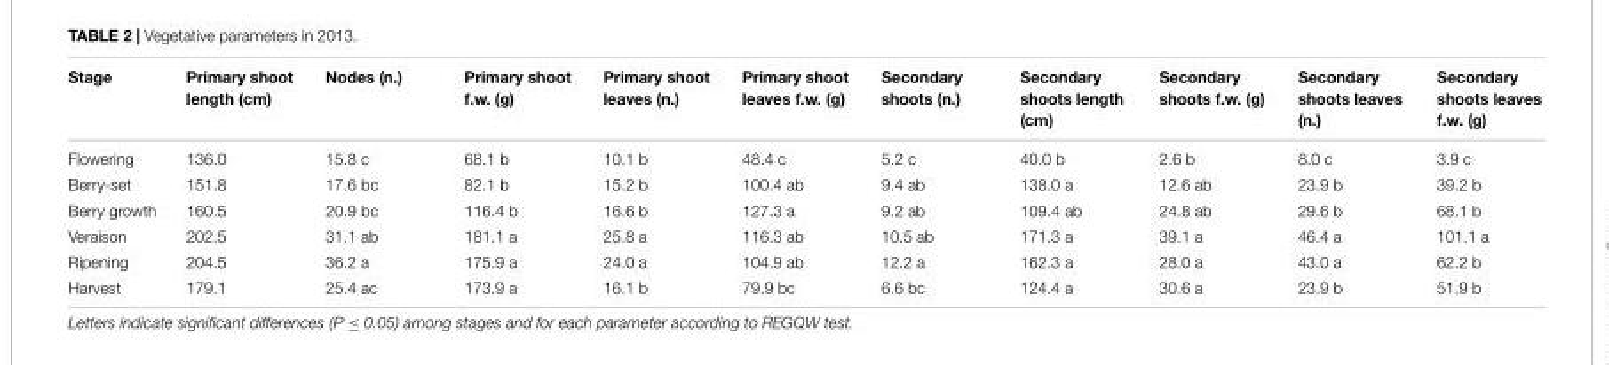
<table><thead><tr><td>Stage</td><td>Primary shoot length (cm)</td><td>Nodes (n.)</td><td>Primary shoot f.w. (g)</td><td>Primary shoot leaves (n.)</td><td>Primary shoot leaves f.w. (g)</td><td>Secondary shoots (n.)</td><td>Secondary shoots length (cm)</td><td>Secondary shoots f.w. (g)</td><td>Secondary shoots leaves (n.)</td><td>Secondary shoots leaves f.w. (g)</td></tr></thead><tbody><tr><td>Flowering</td><td>136.0</td><td>15.8 c</td><td>68.1 b</td><td>10.1 b</td><td>48.4 c</td><td>5.2 c</td><td>40.0 b</td><td>2.6 b</td><td>8.0 c</td><td>3.9 c</td></tr><tr><td>Berry-set</td><td>151.8</td><td>17.6 bc</td><td>82.1 b</td><td>15.2 b</td><td>100.4 ab</td><td>9.4 ab</td><td>138.0 a</td><td>12.6 ab</td><td>23.9 b</td><td>39.2 b</td></tr><tr><td>Berry growth</td><td>160.5</td><td>20.9 bc</td><td>116.4 b</td><td>16.6 b</td><td>127.3 a</td><td>9.2 ab</td><td>109.4 ab</td><td>24.8 ab</td><td>29.6 b</td><td>68.1 b</td></tr><tr><td>Veraison</td><td>202.5</td><td>31.1 ab</td><td>181.1 a</td><td>25.8 a</td><td>116.3 ab</td><td>10.5 ab</td><td>171.3 a</td><td>39.1 a</td><td>46.4 a</td><td>101.1 a</td></tr><tr><td>Ripening</td><td>204.5</td><td>36.2 a</td><td>175.9 a</td><td>24.0 a</td><td>104.9 ab</td><td>12.2 a</td><td>162.3 a</td><td>28.0 a</td><td>43.0 a</td><td>62.2 b</td></tr><tr><td>Harvest</td><td>179.1</td><td>25.4 ac</td><td>173.9 a</td><td>16.1 b</td><td>79.9 bc</td><td>6.6 bc</td><td>124.4 a</td><td>30.6 a</td><td>23.9 b</td><td>51.9 b</td></tr></tbody></table>